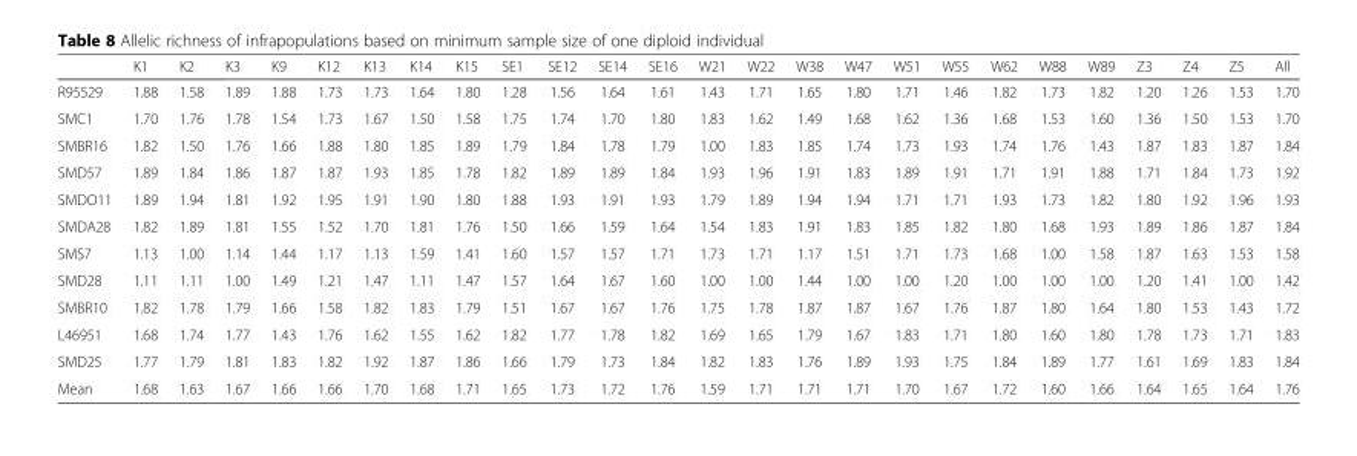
<table><thead><tr><td></td><td>K1</td><td>K2</td><td>K3</td><td>K9</td><td>K12</td><td>K13</td><td>K14</td><td>K15</td><td>SE1</td><td>SE12</td><td>SE14</td><td>SE16</td><td>W21</td><td>W22</td><td>W38</td><td>W47</td><td>W51</td><td>W55</td><td>W62</td><td>W88</td><td>W89</td><td>Z3</td><td>Z4</td><td>Z5</td><td>All</td></tr></thead><tbody><tr><td>R95529</td><td>1.88</td><td>1.58</td><td>1.89</td><td>1.88</td><td>1.73</td><td>1.73</td><td>1.64</td><td>1.80</td><td>1.28</td><td>1.56</td><td>1.64</td><td>1.61</td><td>1.43</td><td>1.71</td><td>1.65</td><td>1.80</td><td>1.71</td><td>1.46</td><td>1.82</td><td>1.73</td><td>1.82</td><td>1.20</td><td>1.26</td><td>1.53</td><td>1.70</td></tr><tr><td>SMC1</td><td>1.70</td><td>1.76</td><td>1.78</td><td>1.54</td><td>1.73</td><td>1.67</td><td>1.50</td><td>1.58</td><td>1.75</td><td>1.74</td><td>1.70</td><td>1.80</td><td>1.83</td><td>1.62</td><td>1.49</td><td>1.68</td><td>1.62</td><td>1.36</td><td>1.68</td><td>1.53</td><td>1.60</td><td>1.36</td><td>1.50</td><td>1.53</td><td>1.70</td></tr><tr><td>SMBR16</td><td>1.82</td><td>1.50</td><td>1.76</td><td>1.66</td><td>1.88</td><td>1.80</td><td>1.85</td><td>1.89</td><td>1.79</td><td>1.84</td><td>1.78</td><td>1.79</td><td>1.00</td><td>1.83</td><td>1.85</td><td>1.74</td><td>1.73</td><td>1.93</td><td>1.74</td><td>1.76</td><td>1.43</td><td>1.87</td><td>1.83</td><td>1.87</td><td>1.84</td></tr><tr><td>SMD57</td><td>1.89</td><td>1.84</td><td>1.86</td><td>1.87</td><td>1.87</td><td>1.93</td><td>1.85</td><td>1.78</td><td>1.82</td><td>1.89</td><td>1.89</td><td>1.84</td><td>1.93</td><td>1.96</td><td>1.91</td><td>1.83</td><td>1.89</td><td>1.91</td><td>1.71</td><td>1.91</td><td>1.88</td><td>1.71</td><td>1.84</td><td>1.73</td><td>1.92</td></tr><tr><td>SMDO11</td><td>1.89</td><td>1.94</td><td>1.81</td><td>1.92</td><td>1.95</td><td>1.91</td><td>1.90</td><td>1.80</td><td>1.88</td><td>1.93</td><td>1.91</td><td>1.93</td><td>1.79</td><td>1.89</td><td>1.94</td><td>1.94</td><td>1.71</td><td>1.71</td><td>1.93</td><td>1.73</td><td>1.82</td><td>1.80</td><td>1.92</td><td>1.96</td><td>1.93</td></tr><tr><td>SMDA28</td><td>1.82</td><td>1.89</td><td>1.81</td><td>1.55</td><td>1.52</td><td>1.70</td><td>1.81</td><td>1.76</td><td>1.50</td><td>1.66</td><td>1.59</td><td>1.64</td><td>1.54</td><td>1.83</td><td>1.91</td><td>1.83</td><td>1.85</td><td>1.82</td><td>1.80</td><td>1.68</td><td>1.93</td><td>1.89</td><td>1.86</td><td>1.87</td><td>1.84</td></tr><tr><td>SMS7</td><td>1.13</td><td>1.00</td><td>1.14</td><td>1.44</td><td>1.17</td><td>1.13</td><td>1.59</td><td>1.41</td><td>1.60</td><td>1.57</td><td>1.57</td><td>1.71</td><td>1.73</td><td>1.71</td><td>1.17</td><td>1.51</td><td>1.71</td><td>1.73</td><td>1.68</td><td>1.00</td><td>1.58</td><td>1.87</td><td>1.63</td><td>1.53</td><td>1.58</td></tr><tr><td>SMD28</td><td>1.11</td><td>1.11</td><td>1.00</td><td>1.49</td><td>1.21</td><td>1.47</td><td>1.11</td><td>1.47</td><td>1.57</td><td>1.64</td><td>1.67</td><td>1.60</td><td>1.00</td><td>1.00</td><td>1.44</td><td>1.00</td><td>1.00</td><td>1.20</td><td>1.00</td><td>1.00</td><td>1.00</td><td>1.20</td><td>1.41</td><td>1.00</td><td>1.42</td></tr><tr><td>SMBR10</td><td>1.82</td><td>1.78</td><td>1.79</td><td>1.66</td><td>1.58</td><td>1.82</td><td>1.83</td><td>1.79</td><td>1.51</td><td>1.67</td><td>1.67</td><td>1.76</td><td>1.75</td><td>1.78</td><td>1.87</td><td>1.87</td><td>1.67</td><td>1.76</td><td>1.87</td><td>1.80</td><td>1.64</td><td>1.80</td><td>1.53</td><td>1.43</td><td>1.72</td></tr><tr><td>L46951</td><td>1.68</td><td>1.74</td><td>1.77</td><td>1.43</td><td>1.76</td><td>1.62</td><td>1.55</td><td>1.62</td><td>1.82</td><td>1.77</td><td>1.78</td><td>1.82</td><td>1.69</td><td>1.65</td><td>1.79</td><td>1.67</td><td>1.83</td><td>1.71</td><td>1.80</td><td>1.60</td><td>1.80</td><td>1.78</td><td>1.73</td><td>1.71</td><td>1.83</td></tr><tr><td>SMD25</td><td>1.77</td><td>1.79</td><td>1.81</td><td>1.83</td><td>1.82</td><td>1.92</td><td>1.87</td><td>1.86</td><td>1.66</td><td>1.79</td><td>1.73</td><td>1.84</td><td>1.82</td><td>1.83</td><td>1.76</td><td>1.89</td><td>1.93</td><td>1.75</td><td>1.84</td><td>1.89</td><td>1.77</td><td>1.61</td><td>1.69</td><td>1.83</td><td>1.84</td></tr><tr><td>Mean</td><td>1.68</td><td>1.63</td><td>1.67</td><td>1.66</td><td>1.66</td><td>1.70</td><td>1.68</td><td>1.71</td><td>1.65</td><td>1.73</td><td>1.72</td><td>1.76</td><td>1.59</td><td>1.71</td><td>1.71</td><td>1.71</td><td>1.70</td><td>1.67</td><td>1.72</td><td>1.60</td><td>1.66</td><td>1.64</td><td>1.65</td><td>1.64</td><td>1.76</td></tr></tbody></table>